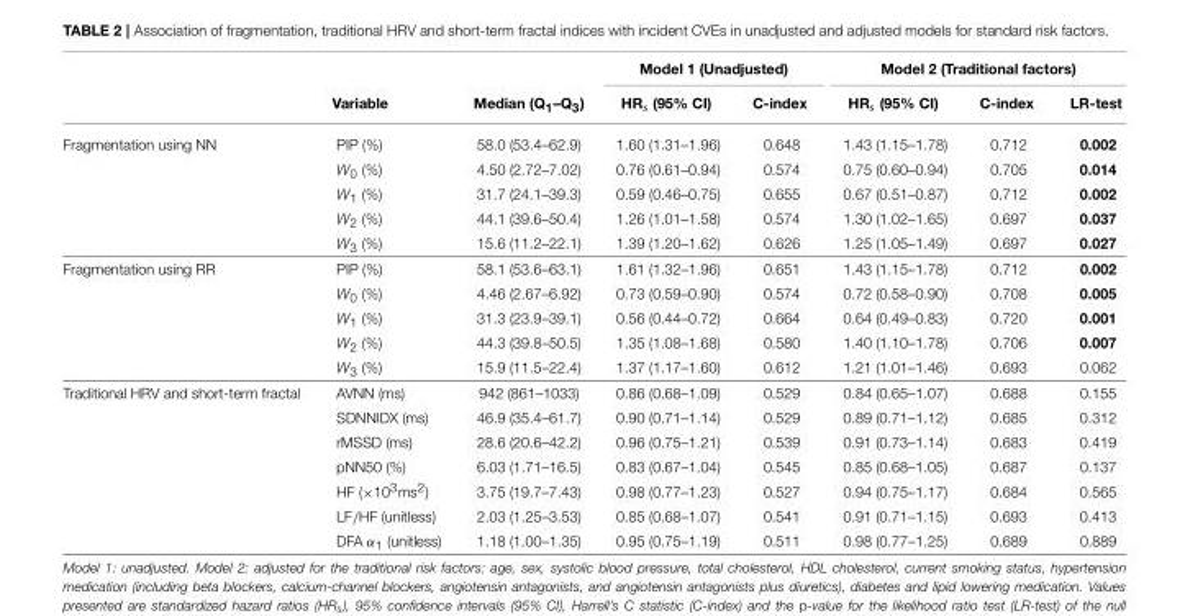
<table><thead><tr><td rowspan="2"></td><td rowspan="2">Variable</td><td rowspan="2">Median (Q<sub>1</sub>–Q<sub>3</sub>)</td><td colspan="2">Model 1 (Unadjusted)</td><td colspan="3">Model 2 (Traditional factors)</td></tr><tr><td>HRs (95% CI)</td><td>C-index</td><td>HRs (95% CI)</td><td>C-index</td><td>LR-test</td></tr></thead><tbody><tr><td rowspan="5">Fragmentation using NN</td><td>PIP (%)</td><td>58.0 (53.4–62.9)</td><td>1.60 (1.31–1.96)</td><td>0.648</td><td>1.43 (1.15–1.78)</td><td>0.712</td><td>0.002</td></tr><tr><td>W<sub>0</sub> (%)</td><td>4.50 (2.72–7.02)</td><td>0.76 (0.61–0.94)</td><td>0.574</td><td>0.75 (0.60–0.94)</td><td>0.705</td><td>0.014</td></tr><tr><td>W<sub>1</sub> (%)</td><td>31.7 (24.1–39.3)</td><td>0.59 (0.46–0.75)</td><td>0.655</td><td>0.67 (0.51–0.87)</td><td>0.712</td><td>0.002</td></tr><tr><td>W<sub>2</sub> (%)</td><td>44.1 (39.6–50.4)</td><td>1.26 (1.01–1.58)</td><td>0.574</td><td>1.30 (1.02–1.65)</td><td>0.697</td><td>0.037</td></tr><tr><td>W<sub>3</sub> (%)</td><td>15.6 (11.2–22.1)</td><td>1.39 (1.20–1.62)</td><td>0.626</td><td>1.25 (1.05–1.49)</td><td>0.697</td><td>0.027</td></tr><tr><td rowspan="5">Fragmentation using RR</td><td>PIP (%)</td><td>58.1 (53.6–63.1)</td><td>1.61 (1.32–1.96)</td><td>0.651</td><td>1.43 (1.15–1.78)</td><td>0.712</td><td>0.002</td></tr><tr><td>W<sub>0</sub> (%)</td><td>4.46 (2.67–6.92)</td><td>0.73 (0.59–0.90)</td><td>0.574</td><td>0.72 (0.58–0.90)</td><td>0.708</td><td>0.005</td></tr><tr><td>W<sub>1</sub> (%)</td><td>31.3 (23.9–39.1)</td><td>0.56 (0.44–0.72)</td><td>0.664</td><td>0.64 (0.49–0.83)</td><td>0.720</td><td>0.001</td></tr><tr><td>W<sub>2</sub> (%)</td><td>44.3 (39.8–50.5)</td><td>1.35 (1.08–1.68)</td><td>0.580</td><td>1.40 (1.10–1.78)</td><td>0.706</td><td>0.007</td></tr><tr><td>W<sub>3</sub> (%)</td><td>15.9 (11.5–22.4)</td><td>1.37 (1.17–1.60)</td><td>0.612</td><td>1.21 (1.01–1.46)</td><td>0.693</td><td>0.062</td></tr><tr><td rowspan="7">Traditional HRV and short-term fractal</td><td>AVNN (ms)</td><td>942 (861–1033)</td><td>0.86 (0.68–1.09)</td><td>0.529</td><td>0.84 (0.65–1.07)</td><td>0.688</td><td>0.155</td></tr><tr><td>SDNNIDX (ms)</td><td>46.9 (35.4–61.7)</td><td>0.90 (0.71–1.14)</td><td>0.529</td><td>0.89 (0.71–1.12)</td><td>0.685</td><td>0.312</td></tr><tr><td>rMSSD (ms)</td><td>28.6 (20.6–42.2)</td><td>0.96 (0.75–1.21)</td><td>0.539</td><td>0.91 (0.73–1.14)</td><td>0.683</td><td>0.419</td></tr><tr><td>pNN50 (%)</td><td>6.03 (1.71–16.5)</td><td>0.83 (0.67–1.04)</td><td>0.545</td><td>0.85 (0.68–1.05)</td><td>0.687</td><td>0.137</td></tr><tr><td>HF (×10<sup>3</sup>ms<sup>2</sup>)</td><td>3.75 (19.7–7.43)</td><td>0.98 (0.77–1.23)</td><td>0.527</td><td>0.94 (0.75–1.17)</td><td>0.684</td><td>0.565</td></tr><tr><td>LF/HF (unitless)</td><td>2.03 (1.25–3.53)</td><td>0.85 (0.68–1.07)</td><td>0.541</td><td>0.91 (0.71–1.15)</td><td>0.693</td><td>0.413</td></tr><tr><td>DFA α<sub>1</sub> (unitless)</td><td>1.18 (1.00–1.35)</td><td>0.95 (0.75–1.19)</td><td>0.511</td><td>0.98 (0.77–1.25)</td><td>0.689</td><td>0.889</td></tr></tbody></table>